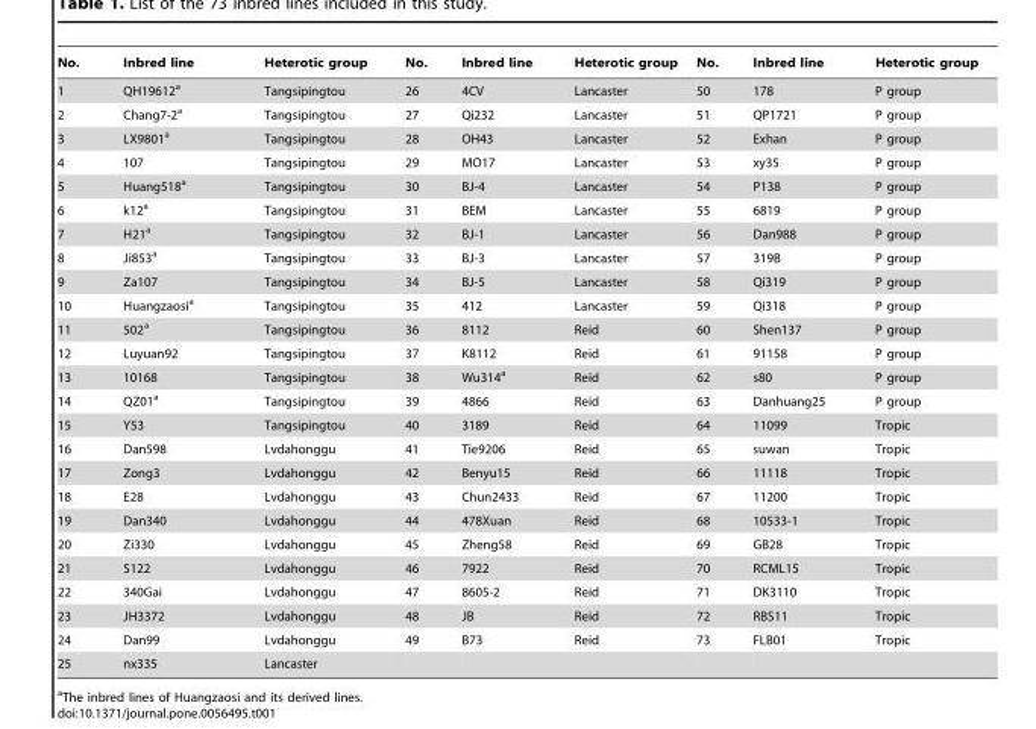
<table><thead><tr><td>No.</td><td>Inbred line</td><td>Heterotic group</td><td>No.</td><td>Inbred line</td><td>Heterotic group</td><td>No.</td><td>Inbred line</td><td>Heterotic group</td></tr></thead><tbody><tr><td>1</td><td>QH19612<sup>a</sup></td><td>Tangsipingtou</td><td>26</td><td>4CV</td><td>Lancaster</td><td>50</td><td>178</td><td>P group</td></tr><tr><td>2</td><td>Chang7-2<sup>a</sup></td><td>Tangsipingtou</td><td>27</td><td>Qi232</td><td>Lancaster</td><td>51</td><td>QP1721</td><td>P group</td></tr><tr><td>3</td><td>LX9801<sup>a</sup></td><td>Tangsipingtou</td><td>28</td><td>OH43</td><td>Lancaster</td><td>52</td><td>Exhan</td><td>P group</td></tr><tr><td>4</td><td>107</td><td>Tangsipingtou</td><td>29</td><td>MO17</td><td>Lancaster</td><td>53</td><td>xy35</td><td>P group</td></tr><tr><td>5</td><td>Huang518<sup>a</sup></td><td>Tangsipingtou</td><td>30</td><td>BJ-4</td><td>Lancaster</td><td>54</td><td>P138</td><td>P group</td></tr><tr><td>6</td><td>k12<sup>a</sup></td><td>Tangsipingtou</td><td>31</td><td>BEM</td><td>Lancaster</td><td>55</td><td>6819</td><td>P group</td></tr><tr><td>7</td><td>H21<sup>a</sup></td><td>Tangsipingtou</td><td>32</td><td>BJ-1</td><td>Lancaster</td><td>56</td><td>Dan988</td><td>P group</td></tr><tr><td>8</td><td>Ji853<sup>a</sup></td><td>Tangsipingtou</td><td>33</td><td>BJ-3</td><td>Lancaster</td><td>57</td><td>319B</td><td>P group</td></tr><tr><td>9</td><td>Za107</td><td>Tangsipingtou</td><td>34</td><td>BJ-5</td><td>Lancaster</td><td>58</td><td>Qi319</td><td>P group</td></tr><tr><td>10</td><td>Huangzaosi<sup>a</sup></td><td>Tangsipingtou</td><td>35</td><td>412</td><td>Lancaster</td><td>59</td><td>Qi318</td><td>P group</td></tr><tr><td>11</td><td>502<sup>a</sup></td><td>Tangsipingtou</td><td>36</td><td>8112</td><td>Reid</td><td>60</td><td>Shen137</td><td>P group</td></tr><tr><td>12</td><td>Luyuan92</td><td>Tangsipingtou</td><td>37</td><td>K8112</td><td>Reid</td><td>61</td><td>91158</td><td>P group</td></tr><tr><td>13</td><td>10168</td><td>Tangsipingtou</td><td>38</td><td>Wu314<sup>a</sup></td><td>Reid</td><td>62</td><td>s80</td><td>P group</td></tr><tr><td>14</td><td>QZ01<sup>a</sup></td><td>Tangsipingtou</td><td>39</td><td>4866</td><td>Reid</td><td>63</td><td>Danhuang25</td><td>P group</td></tr><tr><td>15</td><td>Y53</td><td>Tangsipingtou</td><td>40</td><td>3189</td><td>Reid</td><td>64</td><td>11099</td><td>Tropic</td></tr><tr><td>16</td><td>Dan598</td><td>Lvdahonggu</td><td>41</td><td>Tie9206</td><td>Reid</td><td>65</td><td>suwan</td><td>Tropic</td></tr><tr><td>17</td><td>Zong3</td><td>Lvdahonggu</td><td>42</td><td>Benyu15</td><td>Reid</td><td>66</td><td>11118</td><td>Tropic</td></tr><tr><td>18</td><td>E28</td><td>Lvdahonggu</td><td>43</td><td>Chun2433</td><td>Reid</td><td>67</td><td>11200</td><td>Tropic</td></tr><tr><td>19</td><td>Dan340</td><td>Lvdahonggu</td><td>44</td><td>478Xuan</td><td>Reid</td><td>68</td><td>10533-1</td><td>Tropic</td></tr><tr><td>20</td><td>Zi330</td><td>Lvdahonggu</td><td>45</td><td>Zheng58</td><td>Reid</td><td>69</td><td>GB28</td><td>Tropic</td></tr><tr><td>21</td><td>S122</td><td>Lvdahonggu</td><td>46</td><td>7922</td><td>Reid</td><td>70</td><td>RCML15</td><td>Tropic</td></tr><tr><td>22</td><td>340Gai</td><td>Lvdahonggu</td><td>47</td><td>8605-2</td><td>Reid</td><td>71</td><td>DK3110</td><td>Tropic</td></tr><tr><td>23</td><td>JH3372</td><td>Lvdahonggu</td><td>48</td><td>JB</td><td>Reid</td><td>72</td><td>RBS11</td><td>Tropic</td></tr><tr><td>24</td><td>Dan99</td><td>Lvdahonggu</td><td>49</td><td>B73</td><td>Reid</td><td>73</td><td>FLB01</td><td>Tropic</td></tr><tr><td>25</td><td>nx335</td><td>Lancaster</td><td></td><td></td><td></td><td></td><td></td><td></td></tr></tbody></table>